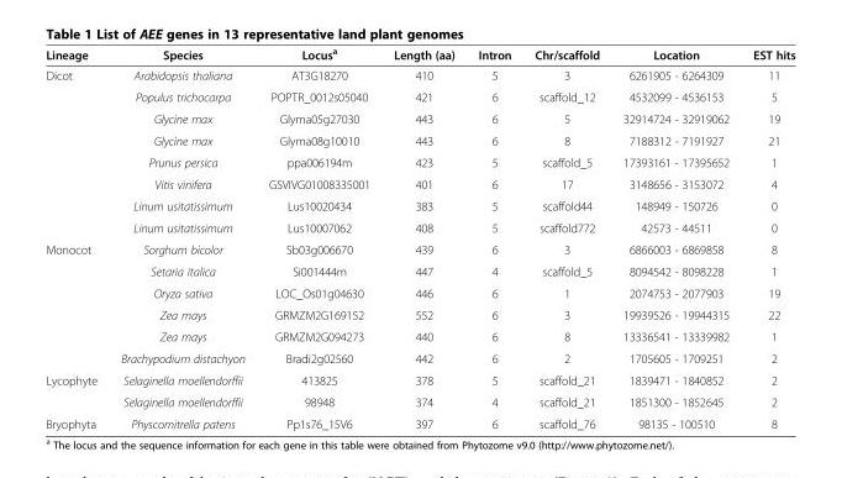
<table><thead><tr><td>Lineage</td><td>Species</td><td>Locus<sup>a</sup></td><td>Length (aa)</td><td>Intron</td><td>Chr/scaffold</td><td>Location</td><td>EST hits</td></tr></thead><tbody><tr><td rowspan="8">Dicot</td><td>Arabidopsis thaliana</td><td>AT3G18270</td><td>410</td><td>5</td><td>3</td><td>6261905 - 6264309</td><td>11</td></tr><tr><td>Populus trichocarpa</td><td>POPTR_0012s05040</td><td>421</td><td>6</td><td>scaffold_12</td><td>4532099 - 4536153</td><td>5</td></tr><tr><td>Glycine max</td><td>Glyma05g27030</td><td>443</td><td>6</td><td>5</td><td>32914724 - 32919062</td><td>19</td></tr><tr><td>Glycine max</td><td>Glyma08g10010</td><td>443</td><td>6</td><td>8</td><td>7188312 - 7191927</td><td>21</td></tr><tr><td>Prunus persica</td><td>ppa006194m</td><td>423</td><td>5</td><td>scaffold_5</td><td>17393161 - 17395652</td><td>1</td></tr><tr><td>Vitis vinifera</td><td>GSVIVG01008335001</td><td>401</td><td>6</td><td>17</td><td>3148656 - 3153072</td><td>4</td></tr><tr><td>Linum usitatissimum</td><td>Lus10020434</td><td>383</td><td>5</td><td>scaffold44</td><td>148949 - 150726</td><td>0</td></tr><tr><td>Linum usitatissimum</td><td>Lus10007062</td><td>408</td><td>5</td><td>scaffold772</td><td>42573 - 44511</td><td>0</td></tr><tr><td rowspan="6">Monocot</td><td>Sorghum bicolor</td><td>Sb03g006670</td><td>439</td><td>6</td><td>3</td><td>6866003 - 6869858</td><td>8</td></tr><tr><td>Setaria italica</td><td>Si001444m</td><td>447</td><td>4</td><td>scaffold_5</td><td>8094542 - 8098228</td><td>1</td></tr><tr><td>Oryza sativa</td><td>LOC_Os01g04630</td><td>446</td><td>6</td><td>1</td><td>2074753 - 2077903</td><td>19</td></tr><tr><td>Zea mays</td><td>GRMZM2G169152</td><td>552</td><td>6</td><td>3</td><td>19939526 - 19944315</td><td>22</td></tr><tr><td>Zea mays</td><td>GRMZM2G094273</td><td>440</td><td>6</td><td>8</td><td>13336541 - 13339982</td><td>1</td></tr><tr><td>Brachypodium distachyon</td><td>Bradi2g02560</td><td>442</td><td>6</td><td>2</td><td>1705605 - 1709251</td><td>2</td></tr><tr><td rowspan="2">Lycophyte</td><td>Selaginella moellendorffii</td><td>413825</td><td>378</td><td>5</td><td>scaffold_21</td><td>1839471 - 1840852</td><td>2</td></tr><tr><td>Selaginella moellendorffii</td><td>98948</td><td>374</td><td>4</td><td>scaffold_21</td><td>1851300 - 1852645</td><td>2</td></tr><tr><td>Bryophyta</td><td>Physcomitrella patens</td><td>Pp1s76_15V6</td><td>397</td><td>6</td><td>scaffold_76</td><td>98135 - 100510</td><td>8</td></tr></tbody></table>